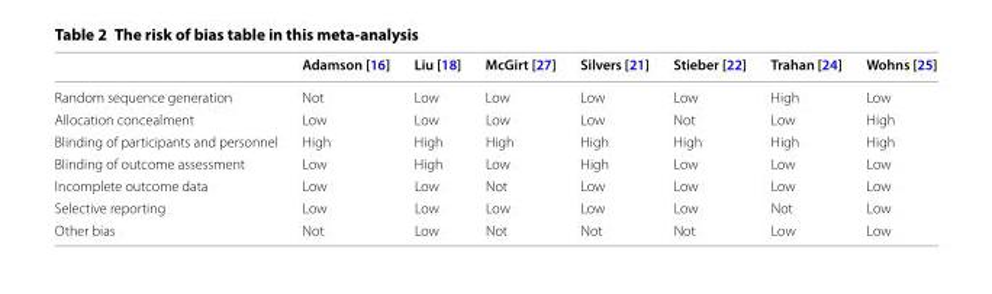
<table><thead><tr><td></td><td>Adamson [16]</td><td>Liu [18]</td><td>McGirt [27]</td><td>Silvers [21]</td><td>Stieber [22]</td><td>Trahan [24]</td><td>Wohns [25]</td></tr></thead><tbody><tr><td>Random sequence generation</td><td>Not</td><td>Low</td><td>Low</td><td>Low</td><td>Low</td><td>High</td><td>Low</td></tr><tr><td>Allocation concealment</td><td>Low</td><td>Low</td><td>Low</td><td>Low</td><td>Not</td><td>Low</td><td>High</td></tr><tr><td>Blinding of participants and personnel</td><td>High</td><td>High</td><td>High</td><td>High</td><td>High</td><td>High</td><td>High</td></tr><tr><td>Blinding of outcome assessment</td><td>Low</td><td>High</td><td>Low</td><td>High</td><td>Low</td><td>Low</td><td>Low</td></tr><tr><td>Incomplete outcome data</td><td>Low</td><td>Low</td><td>Not</td><td>Low</td><td>Low</td><td>Low</td><td>Low</td></tr><tr><td>Selective reporting</td><td>Low</td><td>Low</td><td>Low</td><td>Low</td><td>Low</td><td>Not</td><td>Low</td></tr><tr><td>Other bias</td><td>Not</td><td>Low</td><td>Not</td><td>Not</td><td>Not</td><td>Low</td><td>Low</td></tr></tbody></table>